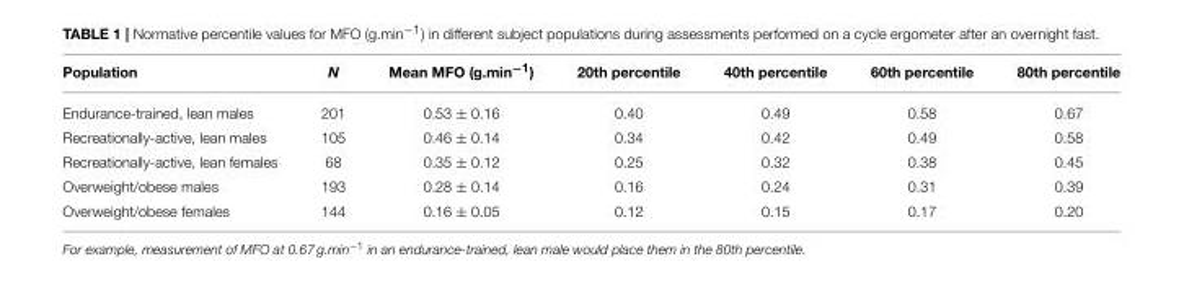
<table><thead><tr><td>Population</td><td>N</td><td>Mean MFO (g.min<sup>−1</sup>)</td><td>20th percentile</td><td>40th percentile</td><td>60th percentile</td><td>80th percentile</td></tr></thead><tbody><tr><td>Endurance-trained, lean males</td><td>201</td><td>0.53 ± 0.16</td><td>0.40</td><td>0.49</td><td>0.58</td><td>0.67</td></tr><tr><td>Recreationally-active, lean males</td><td>105</td><td>0.46 ± 0.14</td><td>0.34</td><td>0.42</td><td>0.49</td><td>0.58</td></tr><tr><td>Recreationally-active, lean females</td><td>68</td><td>0.35 ± 0.12</td><td>0.25</td><td>0.32</td><td>0.38</td><td>0.45</td></tr><tr><td>Overweight/obese males</td><td>193</td><td>0.28 ± 0.14</td><td>0.16</td><td>0.24</td><td>0.31</td><td>0.39</td></tr><tr><td>Overweight/obese females</td><td>144</td><td>0.16 ± 0.05</td><td>0.12</td><td>0.15</td><td>0.17</td><td>0.20</td></tr></tbody></table>